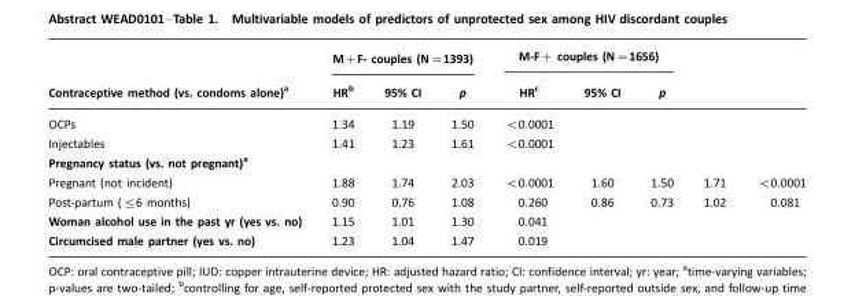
<table><thead><tr><td rowspan="2">Contraceptive method (vs. condoms alone)a</td><td colspan="3">M+F- couples (N=1393)</td><td colspan="3">M-F+ couples (N=1656)</td><td rowspan="2"></td><td rowspan="2"></td></tr><tr><td>HRb</td><td>95% CI</td><td>p</td><td>HRc</td><td>95% CI</td><td>p</td></tr></thead><tbody><tr><td>OCPs</td><td>1.34</td><td>1.19</td><td>1.50</td><td>&lt;0.0001</td><td></td><td></td><td></td><td></td></tr><tr><td>Injectables</td><td>1.41</td><td>1.23</td><td>1.61</td><td>&lt;0.0001</td><td></td><td></td><td></td><td></td></tr><tr><td colspan="9">Pregnancy status (vs. not pregnant)a</td></tr><tr><td>Pregnant (not incident)</td><td>1.88</td><td>1.74</td><td>2.03</td><td>&lt;0.0001</td><td>1.60</td><td>1.50</td><td>1.71</td><td>&lt;0.0001</td></tr><tr><td>Post-partum (≤6 months)</td><td>0.90</td><td>0.76</td><td>1.08</td><td>0.260</td><td>0.86</td><td>0.73</td><td>1.02</td><td>0.081</td></tr><tr><td>Woman alcohol use in the past yr (yes vs. no)</td><td>1.15</td><td>1.01</td><td>1.30</td><td>0.041</td><td></td><td></td><td></td><td></td></tr><tr><td>Circumcised male partner (yes vs. no)</td><td>1.23</td><td>1.04</td><td>1.47</td><td>0.019</td><td></td><td></td><td></td><td></td></tr></tbody></table>